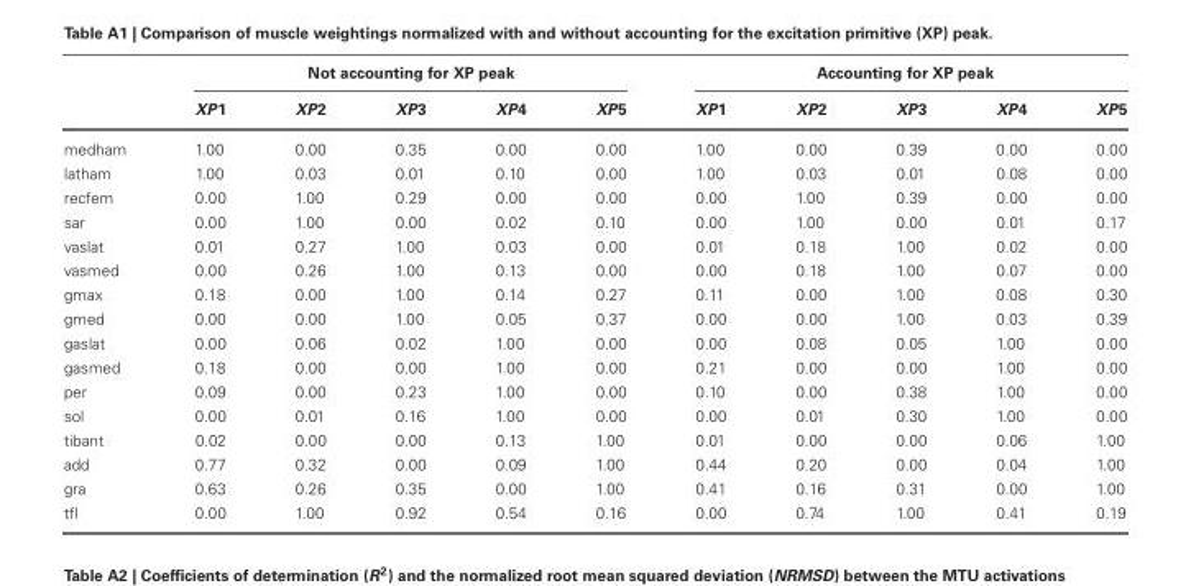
<table><thead><tr><td rowspan="2"></td><td colspan="5">Not accounting for XP peak</td><td colspan="5">Accounting for XP peak</td></tr><tr><td>XP1</td><td>XP2</td><td>XP3</td><td>XP4</td><td>XP5</td><td>XP1</td><td>XP2</td><td>XP3</td><td>XP4</td><td>XP5</td></tr></thead><tbody><tr><td>medham</td><td>1.00</td><td>0.00</td><td>0.35</td><td>0.00</td><td>0.00</td><td>1.00</td><td>0.00</td><td>0.39</td><td>0.00</td><td>0.00</td></tr><tr><td>latham</td><td>1.00</td><td>0.03</td><td>0.01</td><td>0.10</td><td>0.00</td><td>1.00</td><td>0.03</td><td>0.01</td><td>0.08</td><td>0.00</td></tr><tr><td>recfem</td><td>0.00</td><td>1.00</td><td>0.29</td><td>0.00</td><td>0.00</td><td>0.00</td><td>1.00</td><td>0.39</td><td>0.00</td><td>0.00</td></tr><tr><td>sar</td><td>0.00</td><td>1.00</td><td>0.00</td><td>0.02</td><td>0.10</td><td>0.00</td><td>1.00</td><td>0.00</td><td>0.01</td><td>0.17</td></tr><tr><td>vaslat</td><td>0.01</td><td>0.27</td><td>1.00</td><td>0.03</td><td>0.00</td><td>0.01</td><td>0.18</td><td>1.00</td><td>0.02</td><td>0.00</td></tr><tr><td>vasmed</td><td>0.00</td><td>0.26</td><td>1.00</td><td>0.13</td><td>0.00</td><td>0.00</td><td>0.18</td><td>1.00</td><td>0.07</td><td>0.00</td></tr><tr><td>gmax</td><td>0.18</td><td>0.00</td><td>1.00</td><td>0.14</td><td>0.27</td><td>0.11</td><td>0.00</td><td>1.00</td><td>0.08</td><td>0.30</td></tr><tr><td>gmed</td><td>0.00</td><td>0.00</td><td>1.00</td><td>0.05</td><td>0.37</td><td>0.00</td><td>0.00</td><td>1.00</td><td>0.03</td><td>0.39</td></tr><tr><td>gaslat</td><td>0.00</td><td>0.06</td><td>0.02</td><td>1.00</td><td>0.00</td><td>0.00</td><td>0.08</td><td>0.05</td><td>1.00</td><td>0.00</td></tr><tr><td>gasmed</td><td>0.18</td><td>0.00</td><td>0.00</td><td>1.00</td><td>0.00</td><td>0.21</td><td>0.00</td><td>0.00</td><td>1.00</td><td>0.00</td></tr><tr><td>per</td><td>0.09</td><td>0.00</td><td>0.23</td><td>1.00</td><td>0.00</td><td>0.10</td><td>0.00</td><td>0.38</td><td>1.00</td><td>0.00</td></tr><tr><td>sol</td><td>0.00</td><td>0.01</td><td>0.16</td><td>1.00</td><td>0.00</td><td>0.00</td><td>0.01</td><td>0.30</td><td>1.00</td><td>0.00</td></tr><tr><td>tibant</td><td>0.02</td><td>0.00</td><td>0.00</td><td>0.13</td><td>1.00</td><td>0.01</td><td>0.00</td><td>0.00</td><td>0.06</td><td>1.00</td></tr><tr><td>add</td><td>0.77</td><td>0.32</td><td>0.00</td><td>0.09</td><td>1.00</td><td>0.44</td><td>0.20</td><td>0.00</td><td>0.04</td><td>1.00</td></tr><tr><td>gra</td><td>0.63</td><td>0.26</td><td>0.35</td><td>0.00</td><td>1.00</td><td>0.41</td><td>0.16</td><td>0.31</td><td>0.00</td><td>1.00</td></tr><tr><td>tfl</td><td>0.00</td><td>1.00</td><td>0.92</td><td>0.54</td><td>0.16</td><td>0.00</td><td>0.74</td><td>1.00</td><td>0.41</td><td>0.19</td></tr></tbody></table>